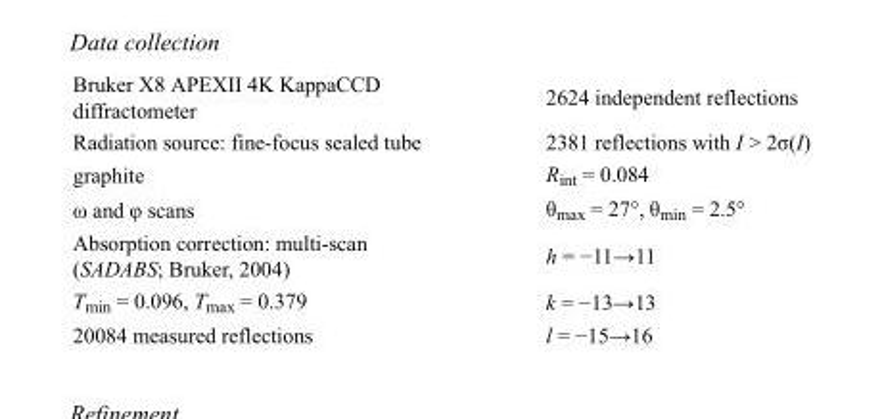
<table><tbody><tr><td>Bruker X8 APEXII 4K KappaCCD diffractometer</td><td>2624 independent reflections</td></tr><tr><td>Radiation source: fine-focus sealed tube</td><td>2381 reflections with I &gt; 2σ(I)</td></tr><tr><td>graphite</td><td>R<sub>int</sub> = 0.084</td></tr><tr><td>ω and φ scans</td><td>θ<sub>max</sub> = 27°, θ<sub>min</sub> = 2.5°</td></tr><tr><td>Absorption correction: multi-scan (SADABS; Bruker, 2004)</td><td>h = −11→11</td></tr><tr><td>T<sub>min</sub> = 0.096, T<sub>max</sub> = 0.379</td><td>k = −13→13</td></tr><tr><td>20084 measured reflections</td><td>l = −15→16</td></tr></tbody></table>